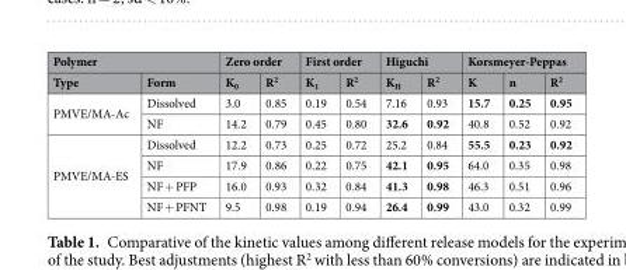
<table><thead><tr><td colspan="2">Polymer</td><td colspan="2">Zero order</td><td colspan="2">First order</td><td colspan="2">Higuchi</td><td colspan="3">Korsmeyer-Peppas</td></tr><tr><td>Type</td><td>Form</td><td>K<sub>0</sub></td><td>R<sup>2</sup></td><td>K<sub>1</sub></td><td>R<sup>2</sup></td><td>K<sub>H</sub></td><td>R<sup>2</sup></td><td>K</td><td>n</td><td>R<sup>2</sup></td></tr></thead><tbody><tr><td rowspan="2">PMVE/MA-Ac</td><td>Dissolved</td><td>3.0</td><td>0.85</td><td>0.19</td><td>0.54</td><td>7.16</td><td>0.93</td><td>15.7</td><td>0.25</td><td>0.95</td></tr><tr><td>NF</td><td>14.2</td><td>0.79</td><td>0.45</td><td>0.80</td><td>32.6</td><td>0.92</td><td>40.8</td><td>0.52</td><td>0.92</td></tr><tr><td rowspan="4">PMVE/MA-ES</td><td>Dissolved</td><td>12.2</td><td>0.73</td><td>0.25</td><td>0.72</td><td>25.2</td><td>0.84</td><td>55.5</td><td>0.23</td><td>0.92</td></tr><tr><td>NF</td><td>17.9</td><td>0.86</td><td>0.22</td><td>0.75</td><td>42.1</td><td>0.95</td><td>64.0</td><td>0.35</td><td>0.98</td></tr><tr><td>NF + PFP</td><td>16.0</td><td>0.93</td><td>0.32</td><td>0.84</td><td>41.3</td><td>0.98</td><td>46.3</td><td>0.51</td><td>0.96</td></tr><tr><td>NF + PFNT</td><td>9.5</td><td>0.98</td><td>0.19</td><td>0.94</td><td>26.4</td><td>0.99</td><td>43.0</td><td>0.32</td><td>0.99</td></tr></tbody></table>